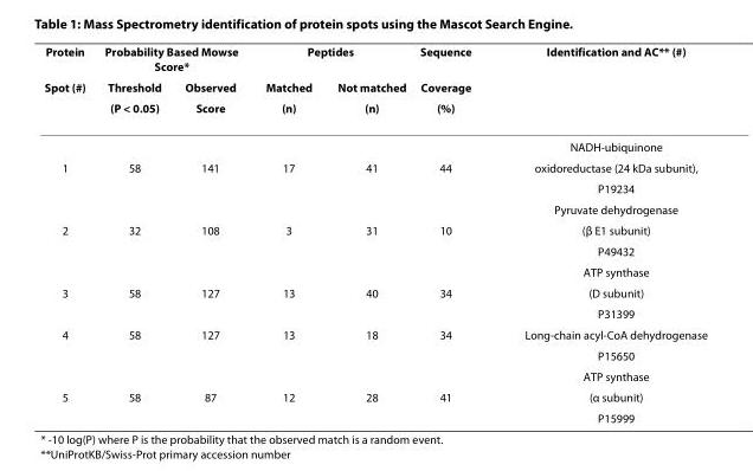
<table><thead><tr><td rowspan="3">Protein Spot (#)</td><td colspan="2">Probability Based Mowse Score*</td><td colspan="2">Peptides</td><td rowspan="3">Sequence Coverage (%)</td><td rowspan="3">Identification and AC** (#)</td></tr><tr><td rowspan="2">Threshold (P &lt; 0.05)</td><td rowspan="2">Observed Score</td><td rowspan="2">Matched (n)</td><td rowspan="2">Not matched (n)</td></tr><tr></tr></thead><tbody><tr><td></td><td></td><td></td><td></td><td></td><td></td><td>NADH-ubiquinone</td></tr><tr><td rowspan="3">1</td><td>58</td><td>141</td><td>17</td><td>41</td><td>44</td><td>oxidoreductase (24 kDa subunit),</td></tr><tr><td></td><td></td><td></td><td></td><td></td><td>P19234</td></tr><tr><td></td><td></td><td></td><td></td><td></td><td>Pyruvate dehydrogenase</td></tr><tr><td rowspan="3">2</td><td>32</td><td>108</td><td>3</td><td>31</td><td>10</td><td>(β E1 subunit)</td></tr><tr><td></td><td></td><td></td><td></td><td></td><td>P49432</td></tr><tr><td></td><td></td><td></td><td></td><td></td><td>ATP synthase</td></tr><tr><td rowspan="2">3</td><td>58</td><td>127</td><td>13</td><td>40</td><td>34</td><td>(D subunit)</td></tr><tr><td></td><td></td><td></td><td></td><td></td><td>P31399</td></tr><tr><td rowspan="3">4</td><td>58</td><td>127</td><td>13</td><td>18</td><td>34</td><td>Long-chain acyl-CoA dehydrogenase</td></tr><tr><td></td><td></td><td></td><td></td><td></td><td>P15650</td></tr><tr><td></td><td></td><td></td><td></td><td></td><td>ATP synthase</td></tr><tr><td rowspan="2">5</td><td>58</td><td>87</td><td>12</td><td>28</td><td>41</td><td>(α subunit)</td></tr><tr><td></td><td></td><td></td><td></td><td></td><td>P15999</td></tr></tbody></table>